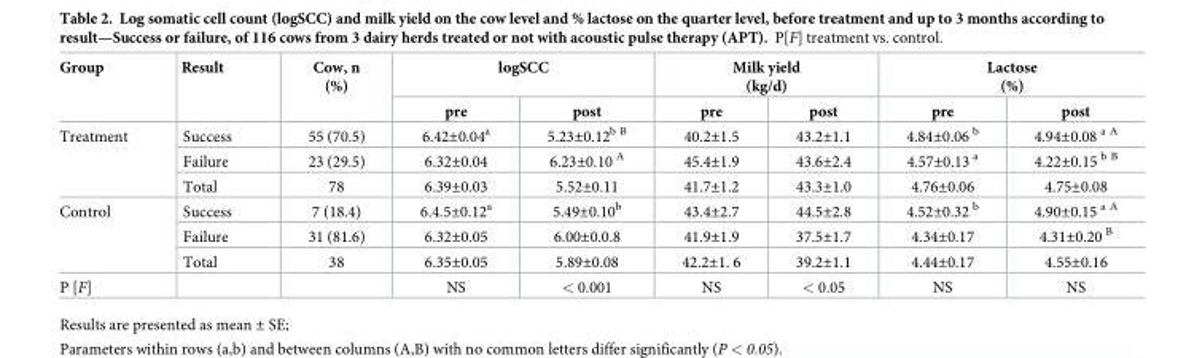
<table><thead><tr><td rowspan="2">Group</td><td rowspan="2">Result</td><td rowspan="2">Cow, n (%)</td><td colspan="2">logSCC</td><td colspan="2">Milk yield (kg/d)</td><td colspan="2">Lactose (%)</td></tr><tr><td>pre</td><td>post</td><td>pre</td><td>post</td><td>pre</td><td>post</td></tr></thead><tbody><tr><td rowspan="3">Treatment</td><td>Success</td><td>55 (70.5)</td><td>6.42±0.04<sup>a</sup></td><td>5.23±0.12<sup>b B</sup></td><td>40.2±1.5</td><td>43.2±1.1</td><td>4.84±0.06 <sup>b</sup></td><td>4.94±0.08 <sup>a A</sup></td></tr><tr><td>Failure</td><td>23 (29.5)</td><td>6.32±0.04</td><td>6.23±0.10 <sup>A</sup></td><td>45.4±1.9</td><td>43.6±2.4</td><td>4.57±0.13 <sup>a</sup></td><td>4.22±0.15 <sup>b B</sup></td></tr><tr><td>Total</td><td>78</td><td>6.39±0.03</td><td>5.52±0.11</td><td>41.7±1.2</td><td>43.3±1.0</td><td>4.76±0.06</td><td>4.75±0.08</td></tr><tr><td rowspan="3">Control</td><td>Success</td><td>7 (18.4)</td><td>6.4.5±0.12<sup>a</sup></td><td>5.49±0.10<sup>b</sup></td><td>43.4±2.7</td><td>44.5±2.8</td><td>4.52±0.32 <sup>b</sup></td><td>4.90±0.15 <sup>a A</sup></td></tr><tr><td>Failure</td><td>31 (81.6)</td><td>6.32±0.05</td><td>6.00±0.0.8</td><td>41.9±1.9</td><td>37.5±1.7</td><td>4.34±0.17</td><td>4.31±0.20 <sup>B</sup></td></tr><tr><td>Total</td><td>38</td><td>6.35±0.05</td><td>5.89±0.08</td><td>42.2±1. 6</td><td>39.2±1.1</td><td>4.44±0.17</td><td>4.55±0.16</td></tr><tr><td>P [F]</td><td></td><td></td><td>NS</td><td>&lt; 0.001</td><td>NS</td><td>&lt; 0.05</td><td>NS</td><td>NS</td></tr></tbody></table>